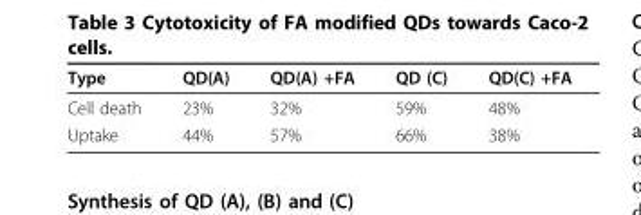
<table><thead><tr><td>Type</td><td>QD(A)</td><td>QD(A) +FA</td><td>QD (C)</td><td>QD(C) +FA</td></tr></thead><tbody><tr><td>Cell death</td><td>23%</td><td>32%</td><td>59%</td><td>48%</td></tr><tr><td>Uptake</td><td>44%</td><td>57%</td><td>66%</td><td>38%</td></tr></tbody></table>